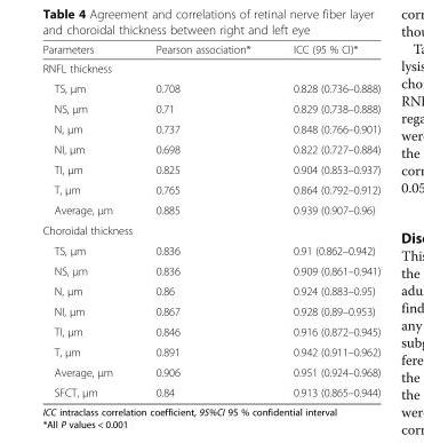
<table><thead><tr><td>Parameters</td><td>Pearson association*</td><td>ICC (95 % CI)*</td></tr></thead><tbody><tr><td colspan="3">RNFL thickness</td></tr><tr><td>TS, μm</td><td>0.708</td><td>0.828 (0.736–0.888)</td></tr><tr><td>NS, μm</td><td>0.71</td><td>0.829 (0.738–0.888)</td></tr><tr><td>N, μm</td><td>0.737</td><td>0.848 (0.766–0.901)</td></tr><tr><td>NI, μm</td><td>0.698</td><td>0.822 (0.727–0.884)</td></tr><tr><td>TI, μm</td><td>0.825</td><td>0.904 (0.853–0.937)</td></tr><tr><td>T, μm</td><td>0.765</td><td>0.864 (0.792–0.912)</td></tr><tr><td>Average, μm</td><td>0.885</td><td>0.939 (0.907–0.96)</td></tr><tr><td colspan="3">Choroidal thickness</td></tr><tr><td>TS, μm</td><td>0.836</td><td>0.91 (0.862–0.942)</td></tr><tr><td>NS, μm</td><td>0.836</td><td>0.909 (0.861–0.941)</td></tr><tr><td>N, μm</td><td>0.86</td><td>0.924 (0.883–0.95)</td></tr><tr><td>NI, μm</td><td>0.867</td><td>0.928 (0.89–0.953)</td></tr><tr><td>TI, μm</td><td>0.846</td><td>0.916 (0.872–0.945)</td></tr><tr><td>T, μm</td><td>0.891</td><td>0.942 (0.911–0.962)</td></tr><tr><td>Average, μm</td><td>0.906</td><td>0.951 (0.924–0.968)</td></tr><tr><td>SFCT, μm</td><td>0.84</td><td>0.913 (0.865–0.944)</td></tr></tbody></table>